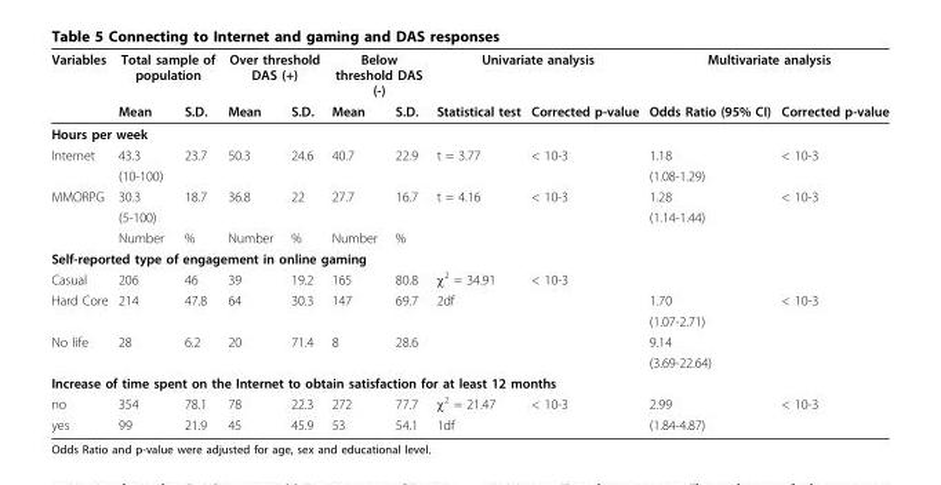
<table><thead><tr><td rowspan="2">Variables</td><td colspan="2">Total sample of population</td><td colspan="2">Over threshold DAS (+)</td><td colspan="2">Below threshold DAS (-)</td><td colspan="2">Univariate analysis</td><td colspan="2">Multivariate analysis</td></tr><tr><td>Mean</td><td>S.D.</td><td>Mean</td><td>S.D.</td><td>Mean</td><td>S.D.</td><td>Statistical test</td><td>Corrected p-value</td><td>Odds Ratio (95% CI)</td><td>Corrected p-value</td></tr></thead><tbody><tr><td colspan="11">Hours per week</td></tr><tr><td rowspan="2">Internet</td><td>43.3</td><td>23.7</td><td>50.3</td><td>24.6</td><td>40.7</td><td>22.9</td><td>t = 3.77</td><td>&lt; 10-3</td><td>1.18</td><td>&lt; 10-3</td></tr><tr><td>(10-100)</td><td></td><td></td><td></td><td></td><td></td><td></td><td></td><td>(1.08-1.29)</td><td></td></tr><tr><td rowspan="3">MMORPG</td><td>30.3</td><td>18.7</td><td>36.8</td><td>22</td><td>27.7</td><td>16.7</td><td>t = 4.16</td><td>&lt; 10-3</td><td>1.28</td><td>&lt; 10-3</td></tr><tr><td>(5-100)</td><td></td><td></td><td></td><td></td><td></td><td></td><td></td><td>(1.14-1.44)</td><td></td></tr><tr><td>Number</td><td>%</td><td>Number</td><td>%</td><td>Number</td><td>%</td><td></td><td></td><td></td><td></td></tr><tr><td colspan="11">Self-reported type of engagement in online gaming</td></tr><tr><td>Casual</td><td>206</td><td>46</td><td>39</td><td>19.2</td><td>165</td><td>80.8</td><td>χ<sup>2</sup> = 34.91</td><td>&lt; 10-3</td><td></td><td></td></tr><tr><td rowspan="2">Hard Core</td><td>214</td><td>47.8</td><td>64</td><td>30.3</td><td>147</td><td>69.7</td><td>2df</td><td></td><td>1.70</td><td>&lt; 10-3</td></tr><tr><td></td><td></td><td></td><td></td><td></td><td></td><td></td><td></td><td>(1.07-2.71)</td><td></td></tr><tr><td rowspan="2">No life</td><td>28</td><td>6.2</td><td>20</td><td>71.4</td><td>8</td><td>28.6</td><td></td><td></td><td>9.14</td><td></td></tr><tr><td></td><td></td><td></td><td></td><td></td><td></td><td></td><td></td><td colspan="2">(3.69-22.64)</td></tr><tr><td colspan="11">Increase of time spent on the Internet to obtain satisfaction for at least 12 months</td></tr><tr><td>no</td><td>354</td><td>78.1</td><td>78</td><td>22.3</td><td>272</td><td>77.7</td><td>χ<sup>2</sup> = 21.47</td><td>&lt; 10-3</td><td>2.99</td><td>&lt; 10-3</td></tr><tr><td>yes</td><td>99</td><td>21.9</td><td>45</td><td>45.9</td><td>53</td><td>54.1</td><td>1df</td><td></td><td>(1.84-4.87)</td><td></td></tr></tbody></table>